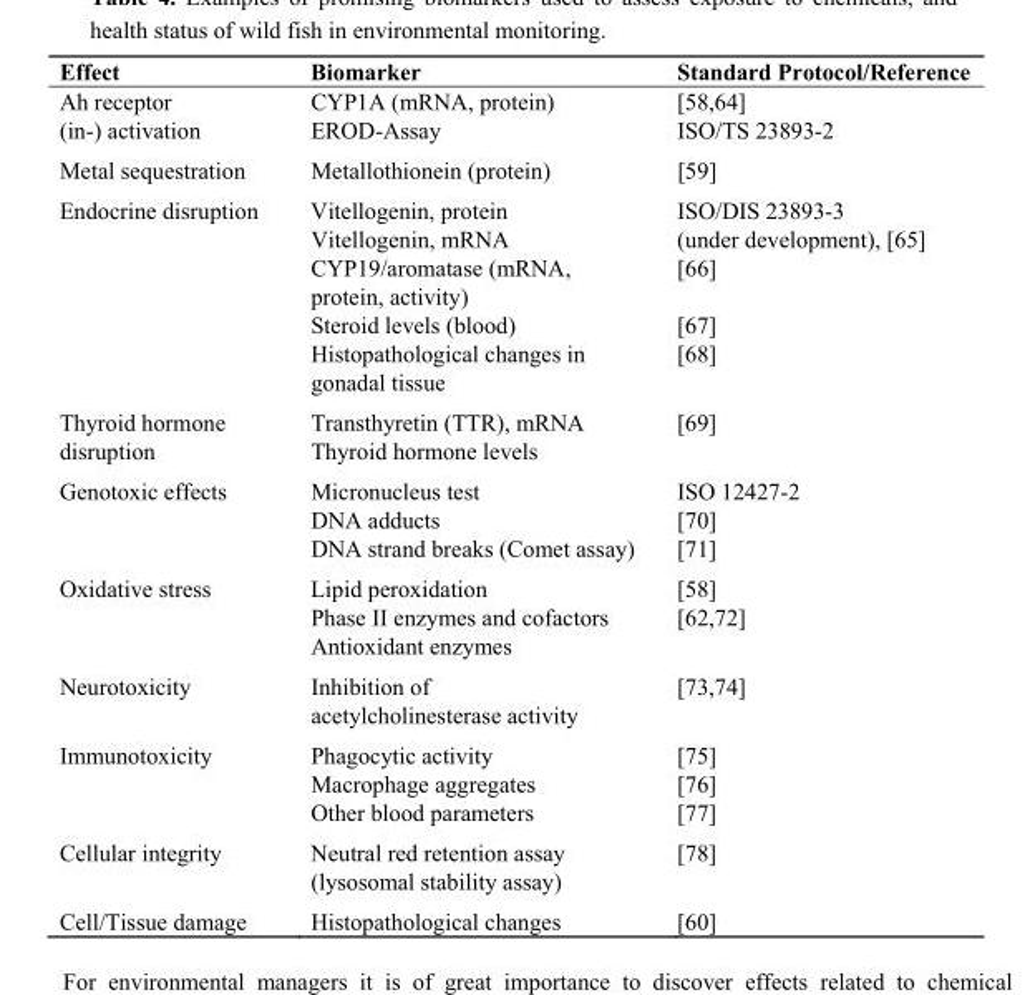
<table><thead><tr><td>Effect</td><td>Biomarker</td><td>Standard Protocol/Reference</td></tr></thead><tbody><tr><td>Ah receptor</td><td>CYP1A (mRNA, protein)</td><td>[58,64]</td></tr><tr><td>(in-) activation</td><td>EROD-Assay</td><td>ISO/TS 23893-2</td></tr><tr><td>Metal sequestration</td><td>Metallothionein (protein)</td><td>[59]</td></tr><tr><td rowspan="5">Endocrine disruption</td><td>Vitellogenin, protein</td><td>ISO/DIS 23893-3</td></tr><tr><td>Vitellogenin, mRNA</td><td>(under development), [65]</td></tr><tr><td>CYP19/aromatase (mRNA, protein, activity)</td><td>[66]</td></tr><tr><td>Steroid levels (blood)</td><td>[67]</td></tr><tr><td>Histopathological changes in gonadal tissue</td><td>[68]</td></tr><tr><td rowspan="2">Thyroid hormone disruption</td><td>Transthyretin (TTR), mRNA</td><td>[69]</td></tr><tr><td>Thyroid hormone levels</td><td></td></tr><tr><td rowspan="3">Genotoxic effects</td><td>Micronucleus test</td><td>ISO 12427-2</td></tr><tr><td>DNA adducts</td><td>[70]</td></tr><tr><td>DNA strand breaks (Comet assay)</td><td>[71]</td></tr><tr><td rowspan="3">Oxidative stress</td><td>Lipid peroxidation</td><td>[58]</td></tr><tr><td>Phase II enzymes and cofactors</td><td>[62,72]</td></tr><tr><td>Antioxidant enzymes</td><td></td></tr><tr><td>Neurotoxicity</td><td>Inhibition of acetylcholinesterase activity</td><td>[73,74]</td></tr><tr><td rowspan="3">Immunotoxicity</td><td>Phagocytic activity</td><td>[75]</td></tr><tr><td>Macrophage aggregates</td><td>[76]</td></tr><tr><td>Other blood parameters</td><td>[77]</td></tr><tr><td>Cellular integrity</td><td>Neutral red retention assay (lysosomal stability assay)</td><td>[78]</td></tr><tr><td>Cell/Tissue damage</td><td>Histopathological changes</td><td>[60]</td></tr></tbody></table>